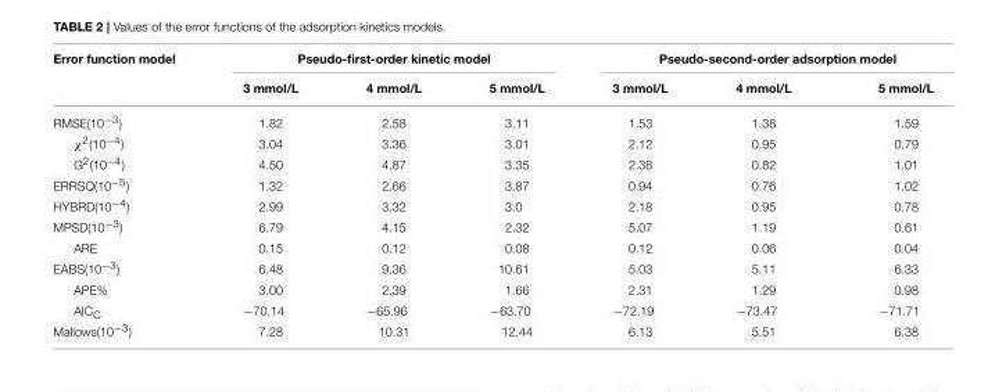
<table><thead><tr><td rowspan="2">Error function model</td><td colspan="3">Pseudo-first-order kinetic model</td><td colspan="3">Pseudo-second-order adsorption model</td></tr><tr><td>3 mmol/L</td><td>4 mmol/L</td><td>5 mmol/L</td><td>3 mmol/L</td><td>4 mmol/L</td><td>5 mmol/L</td></tr></thead><tbody><tr><td>RMSE(10<sup>−3</sup>)</td><td>1.82</td><td>2.58</td><td>3.11</td><td>1.53</td><td>1.38</td><td>1.59</td></tr><tr><td>χ<sup>2</sup>(10<sup>−4</sup>)</td><td>3.04</td><td>3.36</td><td>3.01</td><td>2.12</td><td>0.95</td><td>0.79</td></tr><tr><td>G<sup>2</sup>(10<sup>−4</sup>)</td><td>4.50</td><td>4.87</td><td>3.35</td><td>2.38</td><td>0.82</td><td>1.01</td></tr><tr><td>ERRSQ(10<sup>−5</sup>)</td><td>1.32</td><td>2.66</td><td>3.87</td><td>0.94</td><td>0.76</td><td>1.02</td></tr><tr><td>HYBRD(10<sup>−4</sup>)</td><td>2.99</td><td>3.32</td><td>3.0</td><td>2.18</td><td>0.95</td><td>0.78</td></tr><tr><td>MPSD(10<sup>−3</sup>)</td><td>6.79</td><td>4.15</td><td>2.32</td><td>5.07</td><td>1.19</td><td>0.61</td></tr><tr><td>ARE</td><td>0.15</td><td>0.12</td><td>0.08</td><td>0.12</td><td>0.06</td><td>0.04</td></tr><tr><td>EABS(10<sup>−3</sup>)</td><td>6.48</td><td>9.36</td><td>10.61</td><td>5.03</td><td>5.11</td><td>6.33</td></tr><tr><td>APE%</td><td>3.00</td><td>2.39</td><td>1.66</td><td>2.31</td><td>1.29</td><td>0.98</td></tr><tr><td>AIC<sub>C</sub></td><td>−70.14</td><td>−65.96</td><td>−63.70</td><td>−72.19</td><td>−73.47</td><td>−71.71</td></tr><tr><td>Mallows(10<sup>−3</sup>)</td><td>7.28</td><td>10.31</td><td>12.44</td><td>6.13</td><td>5.51</td><td>6.38</td></tr></tbody></table>